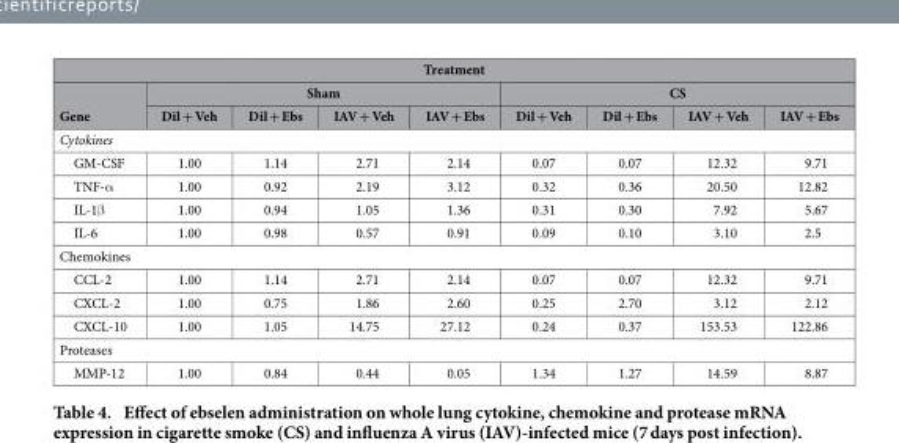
<table><thead><tr><td colspan="9">Treatment</td></tr><tr><td rowspan="2">Gene</td><td colspan="4">Sham</td><td colspan="4">CS</td></tr><tr><td>Dil + Veh</td><td>Dil + Ebs</td><td>IAV + Veh</td><td>IAV + Ebs</td><td>Dil + Veh</td><td>Dil + Ebs</td><td>IAV + Veh</td><td>IAV + Ebs</td></tr></thead><tbody><tr><td colspan="9">Cytokines</td></tr><tr><td>GM-CSF</td><td>1.00</td><td>1.14</td><td>2.71</td><td>2.14</td><td>0.07</td><td>0.07</td><td>12.32</td><td>9.71</td></tr><tr><td>TNF-α</td><td>1.00</td><td>0.92</td><td>2.19</td><td>3.12</td><td>0.32</td><td>0.36</td><td>20.50</td><td>12.82</td></tr><tr><td>IL-1β</td><td>1.00</td><td>0.94</td><td>1.05</td><td>1.36</td><td>0.31</td><td>0.30</td><td>7.92</td><td>5.67</td></tr><tr><td>IL-6</td><td>1.00</td><td>0.98</td><td>0.57</td><td>0.91</td><td>0.09</td><td>0.10</td><td>3.10</td><td>2.5</td></tr><tr><td colspan="9">Chemokines</td></tr><tr><td>CCL-2</td><td>1.00</td><td>1.14</td><td>2.71</td><td>2.14</td><td>0.07</td><td>0.07</td><td>12.32</td><td>9.71</td></tr><tr><td>CXCL-2</td><td>1.00</td><td>0.75</td><td>1.86</td><td>2.60</td><td>0.25</td><td>2.70</td><td>3.12</td><td>2.12</td></tr><tr><td>CXCL-10</td><td>1.00</td><td>1.05</td><td>14.75</td><td>27.12</td><td>0.24</td><td>0.37</td><td>153.53</td><td>122.86</td></tr><tr><td colspan="9">Proteases</td></tr><tr><td>MMP-12</td><td>1.00</td><td>0.84</td><td>0.44</td><td>0.05</td><td>1.34</td><td>1.27</td><td>14.59</td><td>8.87</td></tr></tbody></table>